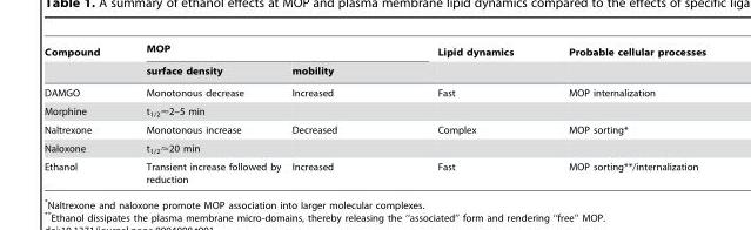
<table><thead><tr><td rowspan="2">Compound</td><td colspan="2">MOP</td><td rowspan="2">Lipid dynamics</td><td rowspan="2">Probable cellular processes</td></tr><tr><td>surface density</td><td>mobility</td></tr></thead><tbody><tr><td>DAMGO</td><td>Monotonous decrease</td><td>Increased</td><td>Fast</td><td>MOP internalization</td></tr><tr><td>Morphine</td><td>t1/2&lt;2–5 min</td><td></td><td></td><td></td></tr><tr><td>Naltrexone</td><td>Monotonous increase</td><td>Decreased</td><td>Complex</td><td>MOP sorting*</td></tr><tr><td>Naloxone</td><td>t1/2&lt;20 min</td><td></td><td></td><td></td></tr><tr><td>Ethanol</td><td>Transient increase followed by reduction</td><td>Increased</td><td>Fast</td><td>MOP sorting**/internalization</td></tr></tbody></table>